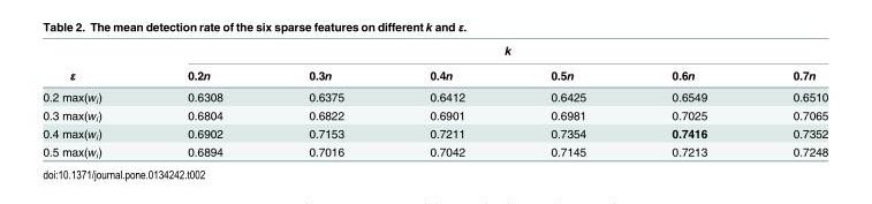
<table><thead><tr><td rowspan="2">ε</td><td colspan="6">k</td></tr><tr><td>0.2n</td><td>0.3n</td><td>0.4n</td><td>0.5n</td><td>0.6n</td><td>0.7n</td></tr></thead><tbody><tr><td>0.2 max(w<sub>i</sub>)</td><td>0.6308</td><td>0.6375</td><td>0.6412</td><td>0.6425</td><td>0.6549</td><td>0.6510</td></tr><tr><td>0.3 max(w<sub>i</sub>)</td><td>0.6804</td><td>0.6822</td><td>0.6901</td><td>0.6981</td><td>0.7025</td><td>0.7065</td></tr><tr><td>0.4 max(w<sub>i</sub>)</td><td>0.6902</td><td>0.7153</td><td>0.7211</td><td>0.7354</td><td>0.7416</td><td>0.7352</td></tr><tr><td>0.5 max(w<sub>i</sub>)</td><td>0.6894</td><td>0.7016</td><td>0.7042</td><td>0.7145</td><td>0.7213</td><td>0.7248</td></tr></tbody></table>